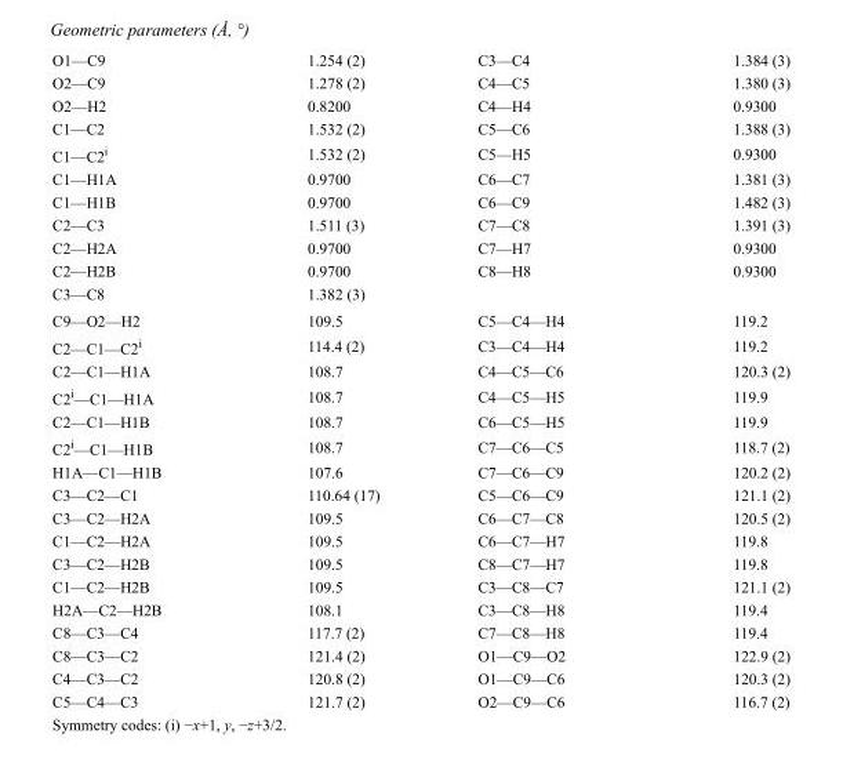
<table><tbody><tr><td>O1—C9</td><td>1.254 (2)</td><td>C3—C4</td><td>1.384 (3)</td></tr><tr><td>O2—C9</td><td>1.278 (2)</td><td>C4—C5</td><td>1.380 (3)</td></tr><tr><td>O2—H2</td><td>0.8200</td><td>C4—H4</td><td>0.9300</td></tr><tr><td>C1—C2</td><td>1.532 (2)</td><td>C5—C6</td><td>1.388 (3)</td></tr><tr><td>C1—C2<sup>i</sup></td><td>1.532 (2)</td><td>C5—H5</td><td>0.9300</td></tr><tr><td>C1—H1A</td><td>0.9700</td><td>C6—C7</td><td>1.381 (3)</td></tr><tr><td>C1—H1B</td><td>0.9700</td><td>C6—C9</td><td>1.482 (3)</td></tr><tr><td>C2—C3</td><td>1.511 (3)</td><td>C7—C8</td><td>1.391 (3)</td></tr><tr><td>C2—H2A</td><td>0.9700</td><td>C7—H7</td><td>0.9300</td></tr><tr><td>C2—H2B</td><td>0.9700</td><td>C8—H8</td><td>0.9300</td></tr><tr><td>C3—C8</td><td>1.382 (3)</td><td></td><td></td></tr><tr><td>C9—O2—H2</td><td>109.5</td><td>C5—C4—H4</td><td>119.2</td></tr><tr><td>C2—C1—C2<sup>i</sup></td><td>114.4 (2)</td><td>C3—C4—H4</td><td>119.2</td></tr><tr><td>C2—C1—H1A</td><td>108.7</td><td>C4—C5—C6</td><td>120.3 (2)</td></tr><tr><td>C2<sup>i</sup>—C1—H1A</td><td>108.7</td><td>C4—C5—H5</td><td>119.9</td></tr><tr><td>C2—C1—H1B</td><td>108.7</td><td>C6—C5—H5</td><td>119.9</td></tr><tr><td>C2<sup>i</sup>—C1—H1B</td><td>108.7</td><td>C7—C6—C5</td><td>118.7 (2)</td></tr><tr><td>H1A—C1—H1B</td><td>107.6</td><td>C7—C6—C9</td><td>120.2 (2)</td></tr><tr><td>C3—C2—C1</td><td>110.64 (17)</td><td>C5—C6—C9</td><td>121.1 (2)</td></tr><tr><td>C3—C2—H2A</td><td>109.5</td><td>C6—C7—C8</td><td>120.5 (2)</td></tr><tr><td>C1—C2—H2A</td><td>109.5</td><td>C6—C7—H7</td><td>119.8</td></tr><tr><td>C3—C2—H2B</td><td>109.5</td><td>C8—C7—H7</td><td>119.8</td></tr><tr><td>C1—C2—H2B</td><td>109.5</td><td>C3—C8—C7</td><td>121.1 (2)</td></tr><tr><td>H2A—C2—H2B</td><td>108.1</td><td>C3—C8—H8</td><td>119.4</td></tr><tr><td>C8—C3—C4</td><td>117.7 (2)</td><td>C7—C8—H8</td><td>119.4</td></tr><tr><td>C8—C3—C2</td><td>121.4 (2)</td><td>O1—C9—O2</td><td>122.9 (2)</td></tr><tr><td>C4—C3—C2</td><td>120.8 (2)</td><td>O1—C9—C6</td><td>120.3 (2)</td></tr><tr><td>C5—C4—C3</td><td>121.7 (2)</td><td>O2—C9—C6</td><td>116.7 (2)</td></tr></tbody></table>